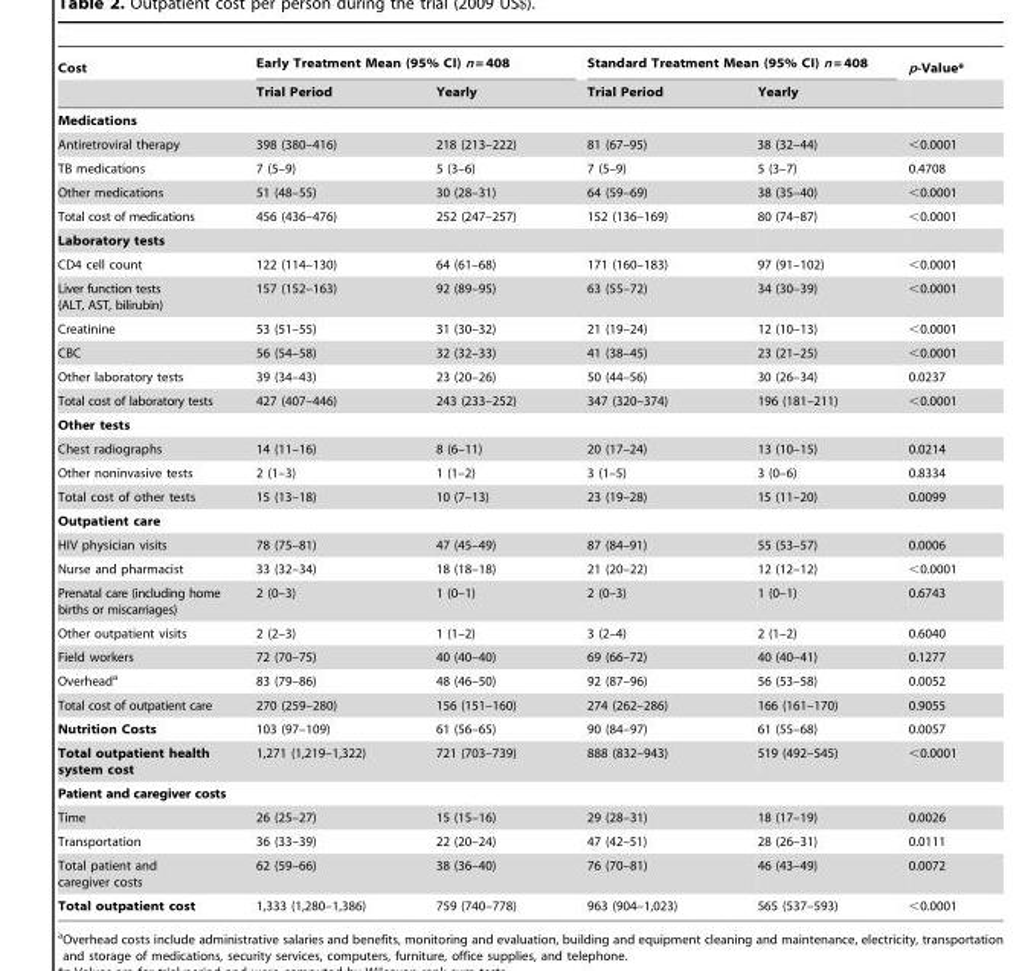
<table><thead><tr><td rowspan="2">Cost</td><td colspan="2">Early Treatment Mean (95% CI) n = 408</td><td colspan="2">Standard Treatment Mean (95% CI) n = 408</td><td rowspan="2">p-Value*</td></tr><tr><td>Trial Period</td><td>Yearly</td><td>Trial Period</td><td>Yearly</td></tr></thead><tbody><tr><td colspan="6">Medications</td></tr><tr><td>Antiretroviral therapy</td><td>398 (380–416)</td><td>218 (213–222)</td><td>81 (67–95)</td><td>38 (32–44)</td><td>&lt;0.0001</td></tr><tr><td>TB medications</td><td>7 (5–9)</td><td>5 (3–6)</td><td>7 (5–9)</td><td>5 (3–7)</td><td>0.4708</td></tr><tr><td>Other medications</td><td>51 (48–55)</td><td>30 (28–31)</td><td>64 (59–69)</td><td>38 (35–40)</td><td>&lt;0.0001</td></tr><tr><td>Total cost of medications</td><td>456 (436–476)</td><td>252 (247–257)</td><td>152 (136–169)</td><td>80 (74–87)</td><td>&lt;0.0001</td></tr><tr><td colspan="6">Laboratory tests</td></tr><tr><td>CD4 cell count</td><td>122 (114–130)</td><td>64 (61–68)</td><td>171 (160–183)</td><td>97 (91–102)</td><td>&lt;0.0001</td></tr><tr><td>Liver function tests (ALT, AST, bilirubin)</td><td>157 (152–163)</td><td>92 (89–95)</td><td>63 (55–72)</td><td>34 (30–39)</td><td>&lt;0.0001</td></tr><tr><td>Creatinine</td><td>53 (51–55)</td><td>31 (30–32)</td><td>21 (19–24)</td><td>12 (10–13)</td><td>&lt;0.0001</td></tr><tr><td>CBC</td><td>56 (54–58)</td><td>32 (32–33)</td><td>41 (38–45)</td><td>23 (21–25)</td><td>&lt;0.0001</td></tr><tr><td>Other laboratory tests</td><td>39 (34–43)</td><td>23 (20–26)</td><td>50 (44–56)</td><td>30 (26–34)</td><td>0.0237</td></tr><tr><td>Total cost of laboratory tests</td><td>427 (407–446)</td><td>243 (233–252)</td><td>347 (320–374)</td><td>196 (181–211)</td><td>&lt;0.0001</td></tr><tr><td colspan="6">Other tests</td></tr><tr><td>Chest radiographs</td><td>14 (11–16)</td><td>8 (6–11)</td><td>20 (17–24)</td><td>13 (10–15)</td><td>0.0214</td></tr><tr><td>Other noninvasive tests</td><td>2 (1–3)</td><td>1 (1–2)</td><td>3 (1–5)</td><td>3 (0–6)</td><td>0.8334</td></tr><tr><td>Total cost of other tests</td><td>15 (13–18)</td><td>10 (7–13)</td><td>23 (19–28)</td><td>15 (11–20)</td><td>0.0099</td></tr><tr><td colspan="6">Outpatient care</td></tr><tr><td>HIV physician visits</td><td>78 (75–81)</td><td>47 (45–49)</td><td>87 (84–91)</td><td>55 (53–57)</td><td>0.0006</td></tr><tr><td>Nurse and pharmacist</td><td>33 (32–34)</td><td>18 (18–18)</td><td>21 (20–22)</td><td>12 (12–12)</td><td>&lt;0.0001</td></tr><tr><td>Prenatal care (including home births or miscarriages)</td><td>2 (0–3)</td><td>1 (0–1)</td><td>2 (0–3)</td><td>1 (0–1)</td><td>0.6743</td></tr><tr><td>Other outpatient visits</td><td>2 (2–3)</td><td>1 (1–2)</td><td>3 (2–4)</td><td>2 (1–2)</td><td>0.6040</td></tr><tr><td>Field workers</td><td>72 (70–75)</td><td>40 (40–40)</td><td>69 (66–72)</td><td>40 (40–41)</td><td>0.1277</td></tr><tr><td>Overhead<sup>a</sup></td><td>83 (79–86)</td><td>48 (46–50)</td><td>92 (87–96)</td><td>56 (53–58)</td><td>0.0052</td></tr><tr><td>Total cost of outpatient care</td><td>270 (259–280)</td><td>156 (151–160)</td><td>274 (262–286)</td><td>166 (161–170)</td><td>0.9055</td></tr><tr><td>Nutrition Costs</td><td>103 (97–109)</td><td>61 (56–65)</td><td>90 (84–97)</td><td>61 (55–68)</td><td>0.0057</td></tr><tr><td>Total outpatient health system cost</td><td>1,271 (1,219–1,322)</td><td>721 (703–739)</td><td>888 (832–943)</td><td>519 (492–545)</td><td>&lt;0.0001</td></tr><tr><td colspan="6">Patient and caregiver costs</td></tr><tr><td>Time</td><td>26 (25–27)</td><td>15 (15–16)</td><td>29 (28–31)</td><td>18 (17–19)</td><td>0.0026</td></tr><tr><td>Transportation</td><td>36 (33–39)</td><td>22 (20–24)</td><td>47 (42–51)</td><td>28 (26–31)</td><td>0.0111</td></tr><tr><td>Total patient and caregiver costs</td><td>62 (59–66)</td><td>38 (36–40)</td><td>76 (70–81)</td><td>46 (43–49)</td><td>0.0072</td></tr><tr><td>Total outpatient cost</td><td>1,333 (1,280–1,386)</td><td>759 (740–778)</td><td>963 (904–1,023)</td><td>565 (537–593)</td><td>&lt;0.0001</td></tr></tbody></table>